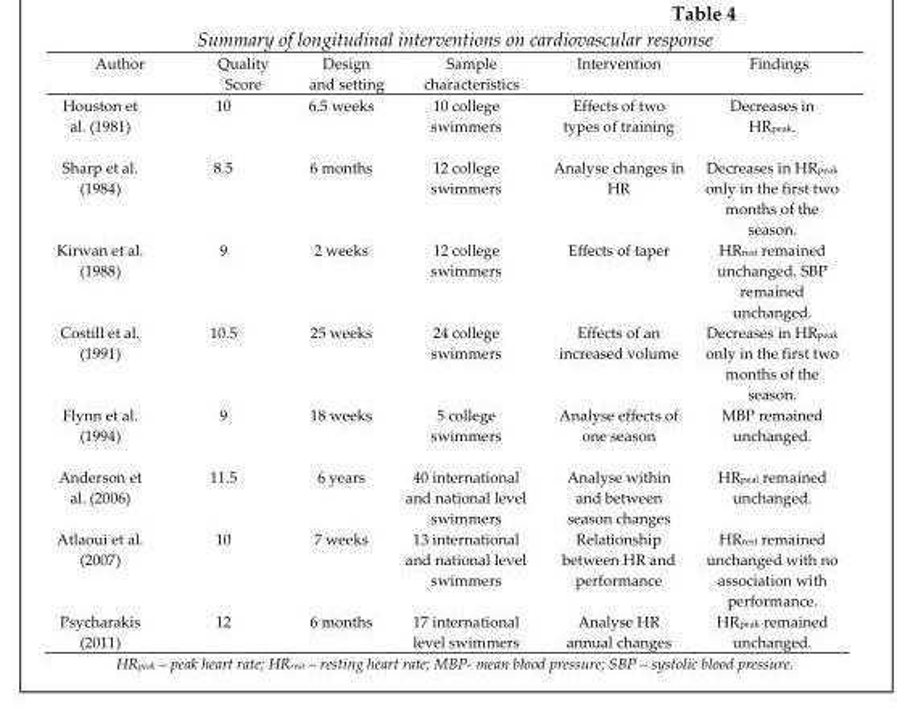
<table><thead><tr><td>Author</td><td>Quality Score</td><td>Design and setting</td><td>Sample characteristics</td><td>Intervention</td><td>Findings</td></tr></thead><tbody><tr><td>Houston et al. (1981)</td><td>10</td><td>6.5 weeks</td><td>10 college swimmers</td><td>Effects of two types of training</td><td>Decreases in HR<sub>peak</sub>.</td></tr><tr><td>Sharp et al. (1984)</td><td>8.5</td><td>6 months</td><td>12 college swimmers</td><td>Analyse changes in HR</td><td>Decreases in HR<sub>peak</sub> only in the first two months of the season.</td></tr><tr><td>Kirwan et al. (1988)</td><td>9</td><td>2 weeks</td><td>12 college swimmers</td><td>Effects of taper</td><td>HR<sub>rest</sub> remained unchanged. SBP remained unchanged.</td></tr><tr><td>Costill et al. (1991)</td><td>10.5</td><td>25 weeks</td><td>24 college swimmers</td><td>Effects of an increased volume</td><td>Decreases in HR<sub>peak</sub> only in the first two months of the season.</td></tr><tr><td>Flynn et al. (1994)</td><td>9</td><td>18 weeks</td><td>5 college swimmers</td><td>Analyse effects of one season</td><td>MBP remained unchanged.</td></tr><tr><td>Anderson et al. (2006)</td><td>11.5</td><td>6 years</td><td>40 international and national level swimmers</td><td>Analyse within and between season changes</td><td>HR<sub>peal</sub> remained unchanged.</td></tr><tr><td>Atlaoui et al. (2007)</td><td>10</td><td>7 weeks</td><td>13 international and national level swimmers</td><td>Relationship between HR and performance</td><td>HR<sub>rest</sub> remained unchanged with no association with performance.</td></tr><tr><td>Psycharakis (2011)</td><td>12</td><td>6 months</td><td>17 international level swimmers</td><td>Analyse HR annual changes</td><td>HR<sub>peak</sub> remained unchanged.</td></tr></tbody></table>